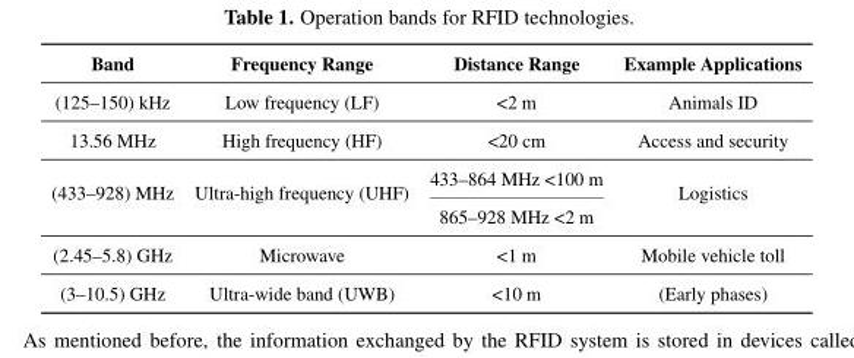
<table><thead><tr><td>Band</td><td>Frequency Range</td><td>Distance Range</td><td>Example Applications</td></tr></thead><tbody><tr><td>(125–150) kHz</td><td>Low frequency (LF)</td><td>&lt;2 m</td><td>Animals ID</td></tr><tr><td>13.56 MHz</td><td>High frequency (HF)</td><td>&lt;20 cm</td><td>Access and security</td></tr><tr><td rowspan="2">(433–928) MHz</td><td rowspan="2">Ultra-high frequency (UHF)</td><td>433–864 MHz &lt;100 m</td><td rowspan="2">Logistics</td></tr><tr><td>865–928 MHz &lt;2 m</td></tr><tr><td>(2.45–5.8) GHz</td><td>Microwave</td><td>&lt;1 m</td><td>Mobile vehicle toll</td></tr><tr><td>(3–10.5) GHz</td><td>Ultra-wide band (UWB)</td><td>&lt;10 m</td><td>(Early phases)</td></tr></tbody></table>